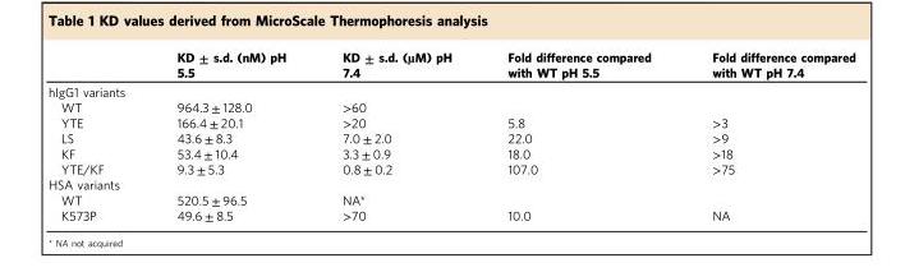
<table><thead><tr><td></td><td>KD ± s.d. (nM) pH 5.5</td><td>KD ± s.d. (µM) pH 7.4</td><td>Fold difference compared with WT pH 5.5</td><td>Fold difference compared with WT pH 7.4</td></tr></thead><tbody><tr><td colspan="5">hIgG1 variants</td></tr><tr><td>WT</td><td>964.3 ± 128.0</td><td>&gt;60</td><td></td><td></td></tr><tr><td>YTE</td><td>166.4 ± 20.1</td><td>&gt;20</td><td>5.8</td><td>&gt;3</td></tr><tr><td>LS</td><td>43.6 ± 8.3</td><td>7.0 ± 2.0</td><td>22.0</td><td>&gt;9</td></tr><tr><td>KF</td><td>53.4 ± 10.4</td><td>3.3 ± 0.9</td><td>18.0</td><td>&gt;18</td></tr><tr><td>YTE/KF</td><td>9.3 ± 5.3</td><td>0.8 ± 0.2</td><td>107.0</td><td>&gt;75</td></tr><tr><td colspan="5">HSA variants</td></tr><tr><td>WT</td><td>520.5 ± 96.5</td><td>NA*</td><td></td><td></td></tr><tr><td>K573P</td><td>49.6 ± 8.5</td><td>&gt;70</td><td>10.0</td><td>NA</td></tr></tbody></table>